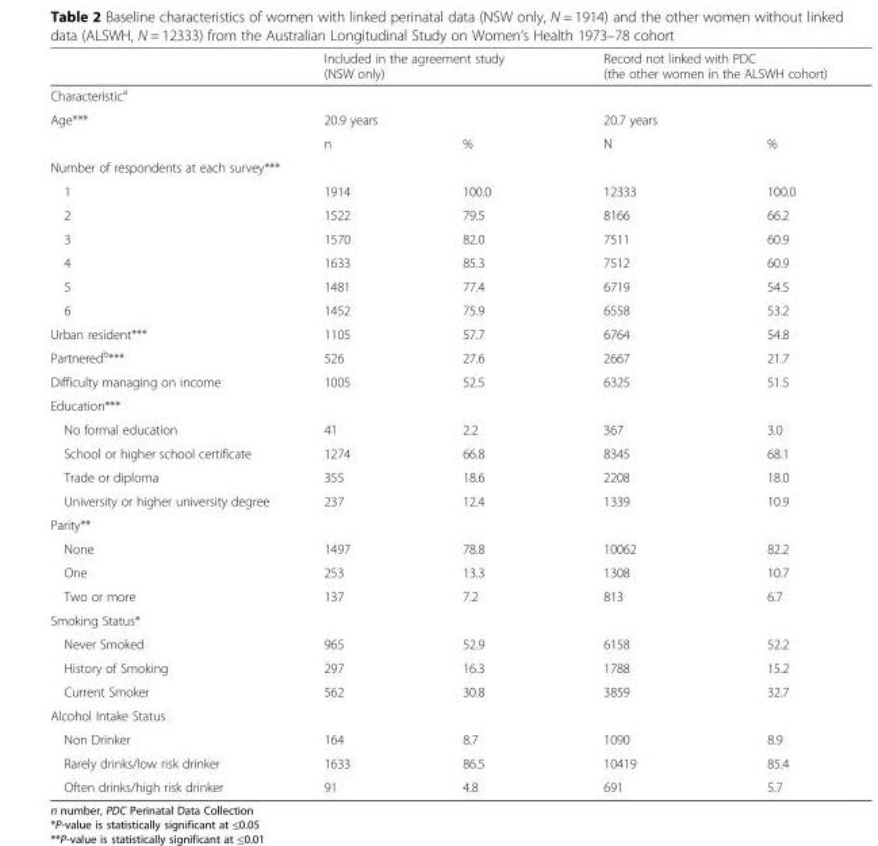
<table><thead><tr><td></td><td colspan="2">Included in the agreement study (NSW only)</td><td colspan="2">Record not linked with PDC (the other women in the ALSWH cohort)</td></tr><tr><td colspan="5">Characteristic<sup>a</sup></td></tr><tr><td rowspan="2">Age***</td><td colspan="2">20.9 years</td><td colspan="2">20.7 years</td></tr><tr><td>n</td><td>%</td><td>N</td><td>%</td></tr></thead><tbody><tr><td colspan="5">Number of respondents at each survey***</td></tr><tr><td>1</td><td>1914</td><td>100.0</td><td>12333</td><td>100.0</td></tr><tr><td>2</td><td>1522</td><td>79.5</td><td>8166</td><td>66.2</td></tr><tr><td>3</td><td>1570</td><td>82.0</td><td>7511</td><td>60.9</td></tr><tr><td>4</td><td>1633</td><td>85.3</td><td>7512</td><td>60.9</td></tr><tr><td>5</td><td>1481</td><td>77.4</td><td>6719</td><td>54.5</td></tr><tr><td>6</td><td>1452</td><td>75.9</td><td>6558</td><td>53.2</td></tr><tr><td>Urban resident***</td><td>1105</td><td>57.7</td><td>6764</td><td>54.8</td></tr><tr><td>Partnered<sup>b</sup>***</td><td>526</td><td>27.6</td><td>2667</td><td>21.7</td></tr><tr><td>Difficulty managing on income</td><td>1005</td><td>52.5</td><td>6325</td><td>51.5</td></tr><tr><td colspan="5">Education***</td></tr><tr><td>No formal education</td><td>41</td><td>2.2</td><td>367</td><td>3.0</td></tr><tr><td>School or higher school certificate</td><td>1274</td><td>66.8</td><td>8345</td><td>68.1</td></tr><tr><td>Trade or diploma</td><td>355</td><td>18.6</td><td>2208</td><td>18.0</td></tr><tr><td>University or higher university degree</td><td>237</td><td>12.4</td><td>1339</td><td>10.9</td></tr><tr><td colspan="5">Parity**</td></tr><tr><td>None</td><td>1497</td><td>78.8</td><td>10062</td><td>82.2</td></tr><tr><td>One</td><td>253</td><td>13.3</td><td>1308</td><td>10.7</td></tr><tr><td>Two or more</td><td>137</td><td>7.2</td><td>813</td><td>6.7</td></tr><tr><td colspan="5">Smoking Status*</td></tr><tr><td>Never Smoked</td><td>965</td><td>52.9</td><td>6158</td><td>52.2</td></tr><tr><td>History of Smoking</td><td>297</td><td>16.3</td><td>1788</td><td>15.2</td></tr><tr><td>Current Smoker</td><td>562</td><td>30.8</td><td>3859</td><td>32.7</td></tr><tr><td colspan="5">Alcohol Intake Status</td></tr><tr><td>Non Drinker</td><td>164</td><td>8.7</td><td>1090</td><td>8.9</td></tr><tr><td>Rarely drinks/low risk drinker</td><td>1633</td><td>86.5</td><td>10419</td><td>85.4</td></tr><tr><td>Often drinks/high risk drinker</td><td>91</td><td>4.8</td><td>691</td><td>5.7</td></tr></tbody></table>